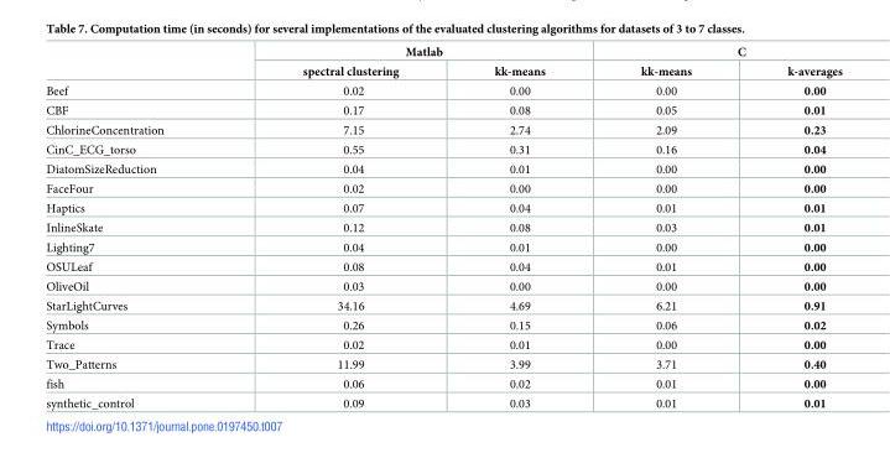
<table><thead><tr><td rowspan="2"></td><td colspan="2">Matlab</td><td colspan="2">C</td></tr><tr><td>spectral clustering</td><td>kk-means</td><td>kk-means</td><td>k-averages</td></tr></thead><tbody><tr><td>Beef</td><td>0.02</td><td>0.00</td><td>0.00</td><td>0.00</td></tr><tr><td>CBF</td><td>0.17</td><td>0.08</td><td>0.05</td><td>0.01</td></tr><tr><td>ChlorineConcentration</td><td>7.15</td><td>2.74</td><td>2.09</td><td>0.23</td></tr><tr><td>CinC_ECG_torso</td><td>0.55</td><td>0.31</td><td>0.16</td><td>0.04</td></tr><tr><td>DiatomSizeReduction</td><td>0.04</td><td>0.01</td><td>0.00</td><td>0.00</td></tr><tr><td>FaceFour</td><td>0.02</td><td>0.00</td><td>0.00</td><td>0.00</td></tr><tr><td>Haptics</td><td>0.07</td><td>0.04</td><td>0.01</td><td>0.01</td></tr><tr><td>InlineSkate</td><td>0.12</td><td>0.08</td><td>0.03</td><td>0.01</td></tr><tr><td>Lighting7</td><td>0.04</td><td>0.01</td><td>0.00</td><td>0.00</td></tr><tr><td>OSULeaf</td><td>0.08</td><td>0.04</td><td>0.01</td><td>0.00</td></tr><tr><td>OliveOil</td><td>0.03</td><td>0.00</td><td>0.00</td><td>0.00</td></tr><tr><td>StarLightCurves</td><td>34.16</td><td>4.69</td><td>6.21</td><td>0.91</td></tr><tr><td>Symbols</td><td>0.26</td><td>0.15</td><td>0.06</td><td>0.02</td></tr><tr><td>Trace</td><td>0.02</td><td>0.01</td><td>0.00</td><td>0.00</td></tr><tr><td>Two_Patterns</td><td>11.99</td><td>3.99</td><td>3.71</td><td>0.40</td></tr><tr><td>fish</td><td>0.06</td><td>0.02</td><td>0.01</td><td>0.00</td></tr><tr><td>synthetic_control</td><td>0.09</td><td>0.03</td><td>0.01</td><td>0.01</td></tr></tbody></table>